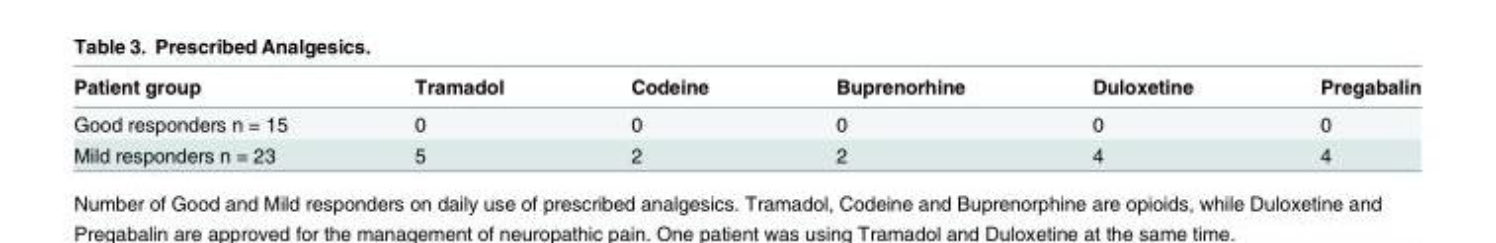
<table><thead><tr><td>Patient group</td><td>Tramadol</td><td>Codeine</td><td>Buprenorhine</td><td>Duloxetine</td><td>Pregabalin</td></tr></thead><tbody><tr><td>Good responders n = 15</td><td>0</td><td>0</td><td>0</td><td>0</td><td>0</td></tr><tr><td>Mild responders n = 23</td><td>5</td><td>2</td><td>2</td><td>4</td><td>4</td></tr></tbody></table>